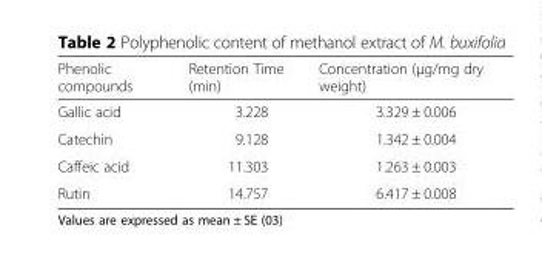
<table><thead><tr><td>Phenolic compounds</td><td>Retention Time (min)</td><td>Concentration (μg/mg dry weight)</td></tr></thead><tbody><tr><td>Gallic acid</td><td>3.228</td><td>3.329 ± 0.006</td></tr><tr><td>Catechin</td><td>9.128</td><td>1.342 ± 0.004</td></tr><tr><td>Caffeic acid</td><td>11.303</td><td>1.263 ± 0.003</td></tr><tr><td>Rutin</td><td>14.757</td><td>6.417 ± 0.008</td></tr></tbody></table>